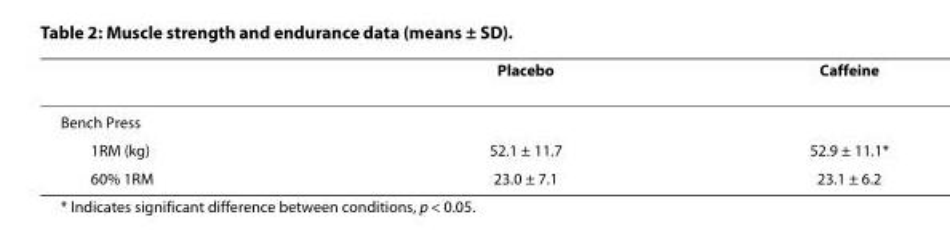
<table><thead><tr><td></td><td>Placebo</td><td>Caffeine</td></tr></thead><tbody><tr><td colspan="3">Bench Press</td></tr><tr><td>1RM (kg)</td><td>52.1 ± 11.7</td><td>52.9 ± 11.1*</td></tr><tr><td>60% 1RM</td><td>23.0 ± 7.1</td><td>23.1 ± 6.2</td></tr></tbody></table>